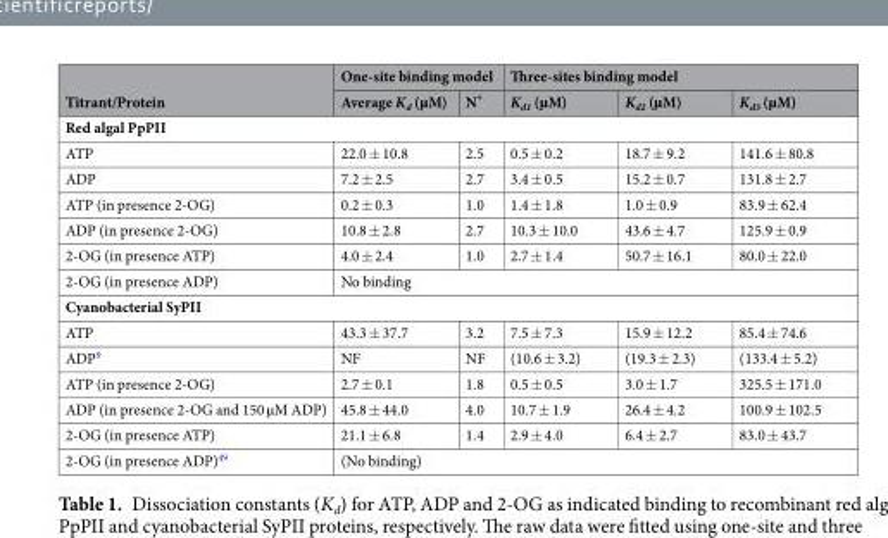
<table><thead><tr><td rowspan="2">Titrant/Protein</td><td colspan="2">One-site binding model</td><td colspan="3">Three-sites binding model</td></tr><tr><td>Average K<sub>d</sub> (µM)</td><td>N*</td><td>K<sub>d1</sub> (µM)</td><td>K<sub>d2</sub> (µM)</td><td>K<sub>d3</sub> (µM)</td></tr></thead><tbody><tr><td colspan="6">Red algal PpPII</td></tr><tr><td>ATP</td><td>22.0 ± 10.8</td><td>2.5</td><td>0.5 ± 0.2</td><td>18.7 ± 9.2</td><td>141.6 ± 80.8</td></tr><tr><td>ADP</td><td>7.2 ± 2.5</td><td>2.7</td><td>3.4 ± 0.5</td><td>15.2 ± 0.7</td><td>131.8 ± 2.7</td></tr><tr><td>ATP (in presence 2-OG)</td><td>0.2 ± 0.3</td><td>1.0</td><td>1.4 ± 1.8</td><td>1.0 ± 0.9</td><td>83.9 ± 62.4</td></tr><tr><td>ADP (in presence 2-OG)</td><td>10.8 ± 2.8</td><td>2.7</td><td>10.3 ± 10.0</td><td>43.6 ± 4.7</td><td>125.9 ± 0.9</td></tr><tr><td>2-OG (in presence ATP)</td><td>4.0 ± 2.4</td><td>1.0</td><td>2.7 ± 1.4</td><td>50.7 ± 16.1</td><td>80.0 ± 22.0</td></tr><tr><td>2-OG (in presence ADP)</td><td colspan="5">No binding</td></tr><tr><td colspan="6">Cyanobacterial SyPII</td></tr><tr><td>ATP</td><td>43.3 ± 37.7</td><td>3.2</td><td>7.5 ± 7.3</td><td>15.9 ± 12.2</td><td>85.4 ± 74.6</td></tr><tr><td>ADP<sup>9</sup></td><td>NF</td><td>NF</td><td>(10.6 ± 3.2)</td><td>(19.3 ± 2.3)</td><td>(133.4 ± 5.2)</td></tr><tr><td>ATP (in presence 2-OG)</td><td>2.7 ± 0.1</td><td>1.8</td><td>0.5 ± 0.5</td><td>3.0 ± 1.7</td><td>325.5 ± 171.0</td></tr><tr><td>ADP (in presence 2-OG and 150 µM ADP)</td><td>45.8 ± 44.0</td><td>4.0</td><td>10.7 ± 1.9</td><td>26.4 ± 4.2</td><td>100.9 ± 102.5</td></tr><tr><td>2-OG (in presence ATP)</td><td>21.1 ± 6.8</td><td>1.4</td><td>2.9 ± 4.0</td><td>6.4 ± 2.7</td><td>83.0 ± 43.7</td></tr><tr><td>2-OG (in presence ADP)<sup>49</sup></td><td colspan="5">(No binding)</td></tr></tbody></table>